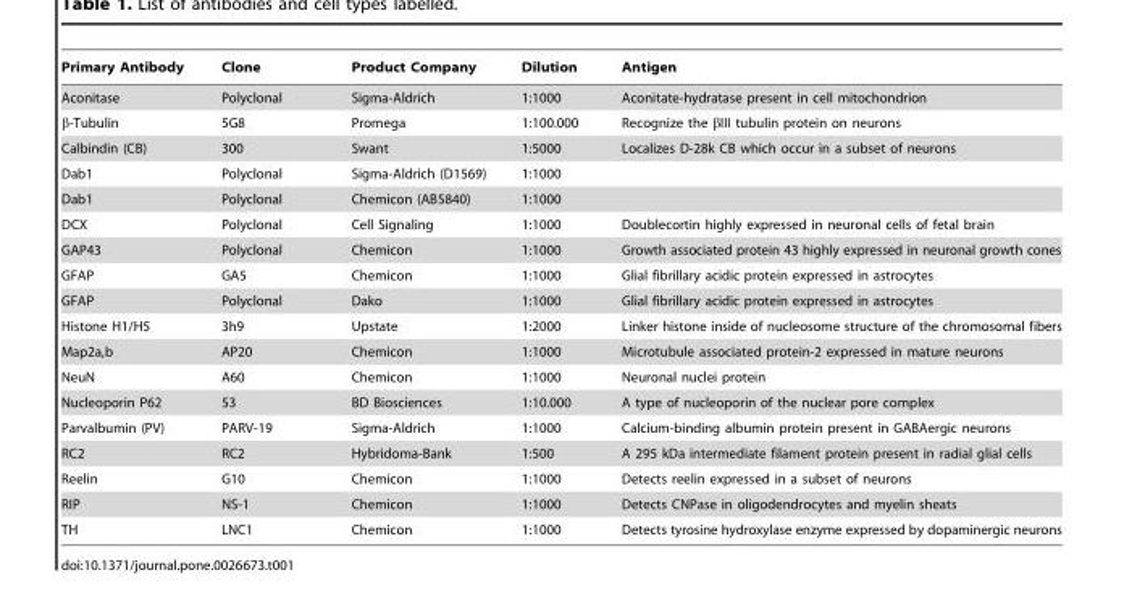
<table><thead><tr><td>Primary Antibody</td><td>Clone</td><td>Product Company</td><td>Dilution</td><td>Antigen</td></tr></thead><tbody><tr><td>Aconitase</td><td>Polyclonal</td><td>Sigma-Aldrich</td><td>1:1000</td><td>Aconitate-hydratase present in cell mitochondrion</td></tr><tr><td>β-Tubulin</td><td>5G8</td><td>Promega</td><td>1:100.000</td><td>Recognize the βIII tubulin protein on neurons</td></tr><tr><td>Calbindin (CB)</td><td>300</td><td>Swant</td><td>1:5000</td><td>Localizes D-28k CB which occur in a subset of neurons</td></tr><tr><td>Dab1</td><td>Polyclonal</td><td>Sigma-Aldrich (D1569)</td><td>1:1000</td><td></td></tr><tr><td>Dab1</td><td>Polyclonal</td><td>Chemicon (AB5840)</td><td>1:1000</td><td></td></tr><tr><td>DCX</td><td>Polyclonal</td><td>Cell Signaling</td><td>1:1000</td><td>Doublecortin highly expressed in neuronal cells of fetal brain</td></tr><tr><td>GAP43</td><td>Polyclonal</td><td>Chemicon</td><td>1:1000</td><td>Growth associated protein 43 highly expressed in neuronal growth cones</td></tr><tr><td>GFAP</td><td>GA5</td><td>Chemicon</td><td>1:1000</td><td>Glial fibrillary acidic protein expressed in astrocytes</td></tr><tr><td>GFAP</td><td>Polyclonal</td><td>Dako</td><td>1:1000</td><td>Glial fibrillary acidic protein expressed in astrocytes</td></tr><tr><td>Histone H1/H5</td><td>3h9</td><td>Upstate</td><td>1:2000</td><td>Linker histone inside of nucleosome structure of the chromosomal fibers</td></tr><tr><td>Map2a,b</td><td>AP20</td><td>Chemicon</td><td>1:1000</td><td>Microtubule associated protein-2 expressed in mature neurons</td></tr><tr><td>NeuN</td><td>A60</td><td>Chemicon</td><td>1:1000</td><td>Neuronal nuclei protein</td></tr><tr><td>Nucleoporin P62</td><td>53</td><td>BD Biosciences</td><td>1:10.000</td><td>A type of nucleoporin of the nuclear pore complex</td></tr><tr><td>Parvalbumin (PV)</td><td>PARV-19</td><td>Sigma-Aldrich</td><td>1:1000</td><td>Calcium-binding albumin protein present in GABAergic neurons</td></tr><tr><td>RC2</td><td>RC2</td><td>Hybridoma-Bank</td><td>1:500</td><td>A 295 kDa intermediate filament protein present in radial glial cells</td></tr><tr><td>Reelin</td><td>G10</td><td>Chemicon</td><td>1:1000</td><td>Detects reelin expressed in a subset of neurons</td></tr><tr><td>RIP</td><td>NS-1</td><td>Chemicon</td><td>1:1000</td><td>Detects CNPase in oligodendrocytes and myelin sheats</td></tr><tr><td>TH</td><td>LNC1</td><td>Chemicon</td><td>1:1000</td><td>Detects tyrosine hydroxylase enzyme expressed by dopaminergic neurons</td></tr></tbody></table>